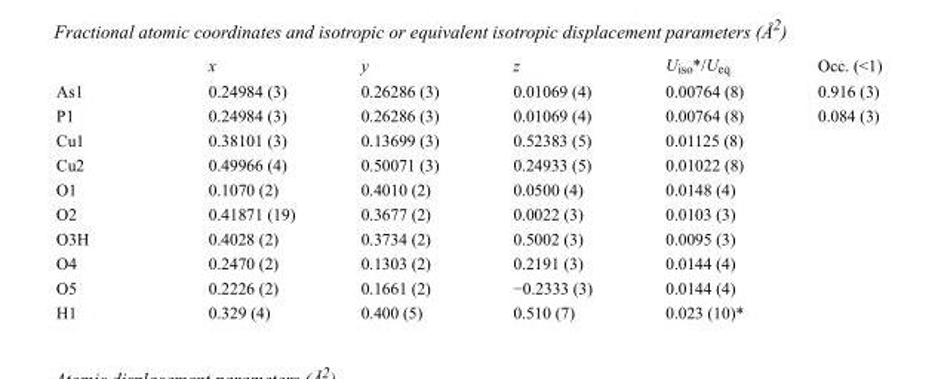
<table><thead><tr><td></td><td>x</td><td>y</td><td>z</td><td>U<sub>iso</sub>*/U<sub>eq</sub></td><td>Occ. (&lt;1)</td></tr></thead><tbody><tr><td>As1</td><td>0.24984 (3)</td><td>0.26286 (3)</td><td>0.01069 (4)</td><td>0.00764 (8)</td><td>0.916 (3)</td></tr><tr><td>P1</td><td>0.24984 (3)</td><td>0.26286 (3)</td><td>0.01069 (4)</td><td>0.00764 (8)</td><td>0.084 (3)</td></tr><tr><td>Cu1</td><td>0.38101 (3)</td><td>0.13699 (3)</td><td>0.52383 (5)</td><td>0.01125 (8)</td><td></td></tr><tr><td>Cu2</td><td>0.49966 (4)</td><td>0.50071 (3)</td><td>0.24933 (5)</td><td>0.01022 (8)</td><td></td></tr><tr><td>O1</td><td>0.1070 (2)</td><td>0.4010 (2)</td><td>0.0500 (4)</td><td>0.0148 (4)</td><td></td></tr><tr><td>O2</td><td>0.41871 (19)</td><td>0.3677 (2)</td><td>0.0022 (3)</td><td>0.0103 (3)</td><td></td></tr><tr><td>O3H</td><td>0.4028 (2)</td><td>0.3734 (2)</td><td>0.5002 (3)</td><td>0.0095 (3)</td><td></td></tr><tr><td>O4</td><td>0.2470 (2)</td><td>0.1303 (2)</td><td>0.2191 (3)</td><td>0.0144 (4)</td><td></td></tr><tr><td>O5</td><td>0.2226 (2)</td><td>0.1661 (2)</td><td>−0.2333 (3)</td><td>0.0144 (4)</td><td></td></tr><tr><td>H1</td><td>0.329 (4)</td><td>0.400 (5)</td><td>0.510 (7)</td><td>0.023 (10)*</td><td></td></tr></tbody></table>